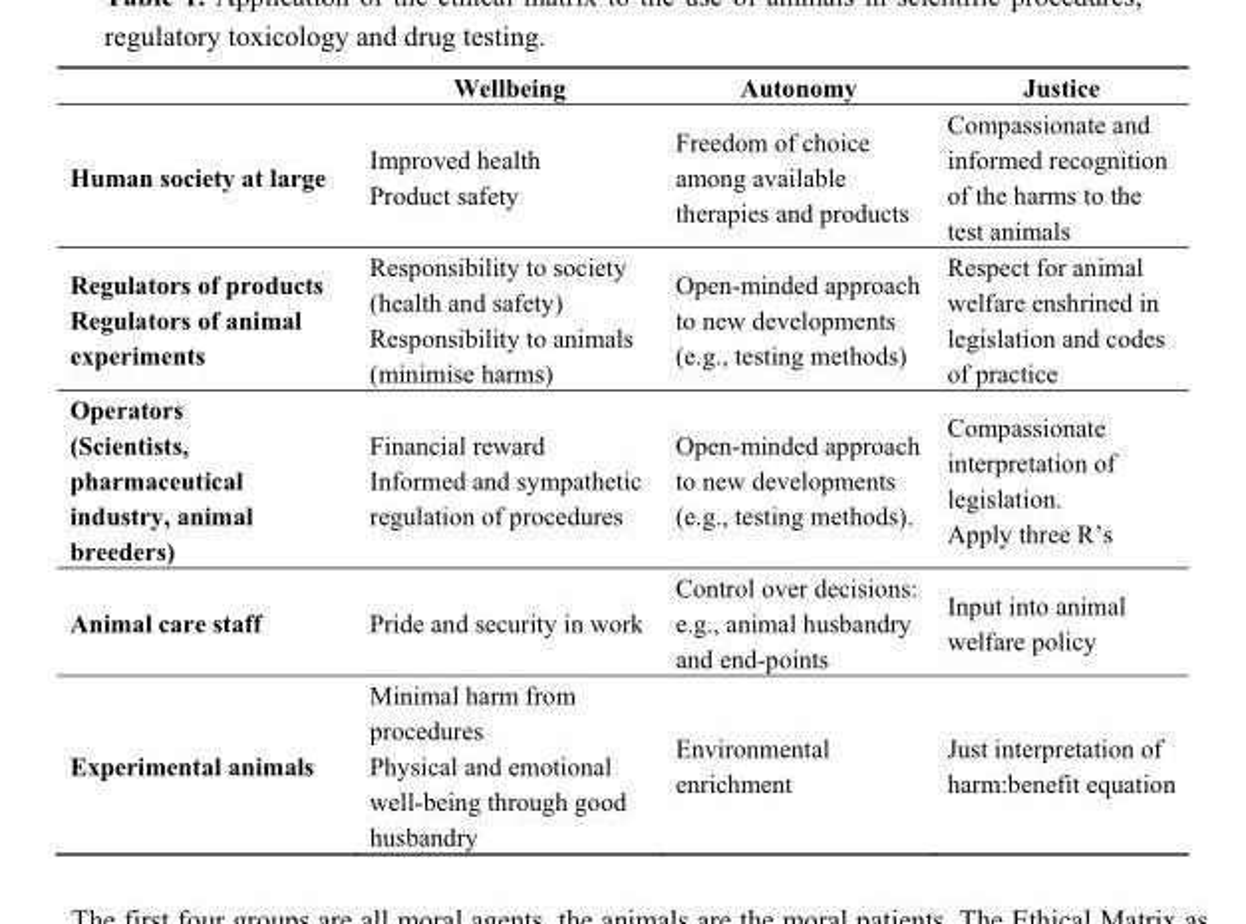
<table><thead><tr><td></td><td>Wellbeing</td><td>Autonomy</td><td>Justice</td></tr></thead><tbody><tr><td>Human society at large</td><td>Improved health Product safety</td><td>Freedom of choice among available therapies and products</td><td>Compassionate and informed recognition of the harms to the test animals</td></tr><tr><td>Regulators of products Regulators of animal experiments</td><td>Responsibility to society (health and safety) Responsibility to animals (minimise harms)</td><td>Open-minded approach to new developments (e.g., testing methods)</td><td>Respect for animal welfare enshrined in legislation and codes of practice</td></tr><tr><td>Operators (Scientists, pharmaceutical industry, animal breeders)</td><td>Financial reward Informed and sympathetic regulation of procedures</td><td>Open-minded approach to new developments (e.g., testing methods).</td><td>Compassionate interpretation of legislation. Apply three R’s</td></tr><tr><td>Animal care staff</td><td>Pride and security in work</td><td>Control over decisions: e.g., animal husbandry and end-points</td><td>Input into animal welfare policy</td></tr><tr><td>Experimental animals</td><td>Minimal harm from procedures Physical and emotional well-being through good husbandry</td><td>Environmental enrichment</td><td>Just interpretation of harm:benefit equation</td></tr></tbody></table>